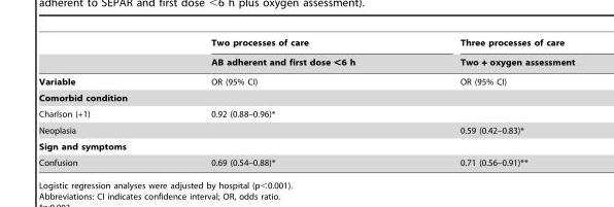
<table><thead><tr><td rowspan="2"></td><td rowspan="2">Two processes of care AB adherent and first dose &lt;6 h</td><td rowspan="2">Three processes of care Two + oxygen assessment</td></tr><tr></tr></thead><tbody><tr><td>Variable</td><td>OR (95% CI)</td><td>OR (95% CI)</td></tr><tr><td colspan="3">Comorbid condition</td></tr><tr><td>Charlson (+1)</td><td>0.92 (0.88–0.96)*</td><td></td></tr><tr><td>Neoplasia</td><td></td><td>0.59 (0.42–0.83)*</td></tr><tr><td colspan="3">Sign and symptoms</td></tr><tr><td>Confusion</td><td>0.69 (0.54–0.88)*</td><td>0.71 (0.56–0.91)**</td></tr></tbody></table>